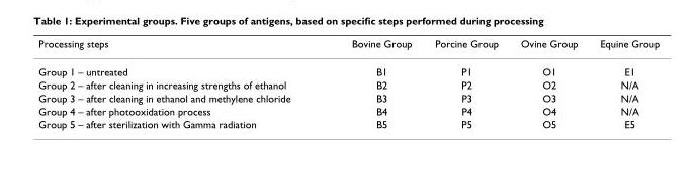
<table><thead><tr><td>Processing steps</td><td>Bovine Group</td><td>Porcine Group</td><td>Ovine Group</td><td>Equine Group</td></tr></thead><tbody><tr><td>Group 1 – untreated</td><td>B1</td><td>P1</td><td>O1</td><td>E1</td></tr><tr><td>Group 2 – after cleaning in increasing strengths of ethanol</td><td>B2</td><td>P2</td><td>O2</td><td>N/A</td></tr><tr><td>Group 3 – after cleaning in ethanol and methylene chloride</td><td>B3</td><td>P3</td><td>O3</td><td>N/A</td></tr><tr><td>Group 4 – after photooxidation process</td><td>B4</td><td>P4</td><td>O4</td><td>N/A</td></tr><tr><td>Group 5 – after sterilization with Gamma radiation</td><td>B5</td><td>P5</td><td>O5</td><td>E5</td></tr></tbody></table>